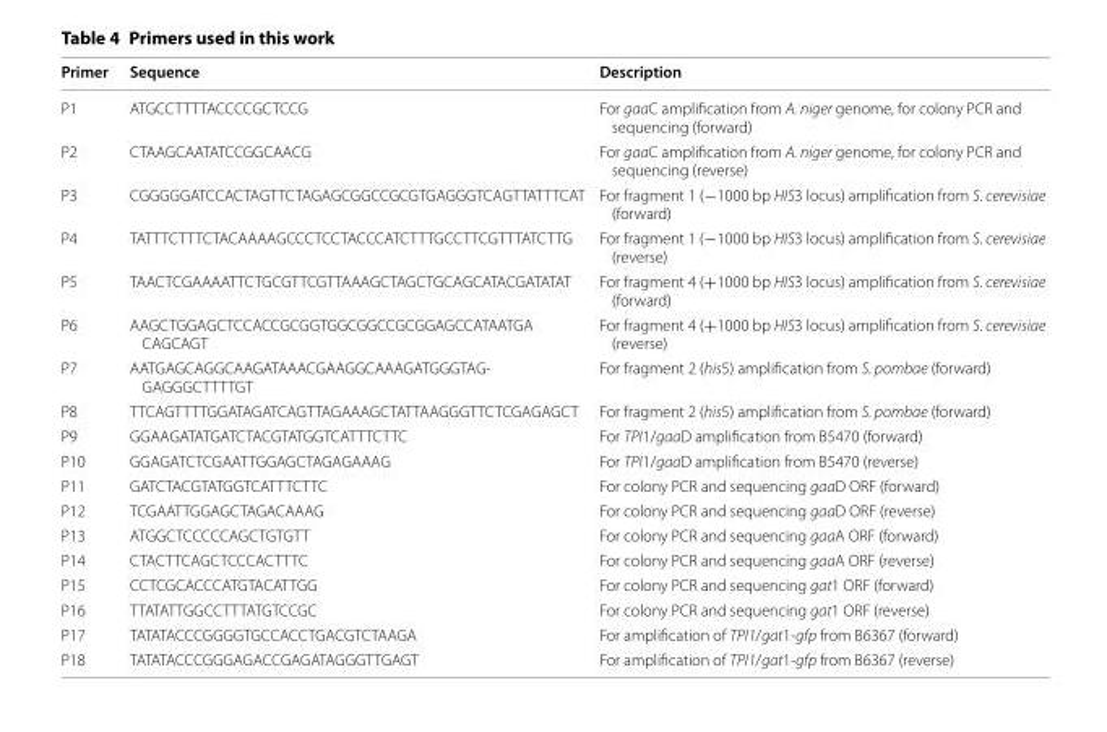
<table><thead><tr><td>Primer</td><td>Sequence</td><td>Description</td></tr></thead><tbody><tr><td>P1</td><td>ATGCCTTTTACCCCGCTCCG</td><td>For gaaC amplification from A. niger genome, for colony PCR and sequencing (forward)</td></tr><tr><td>P2</td><td>CTAAGCAATATCCGGCAACG</td><td>For gaaC amplification from A. niger genome, for colony PCR and sequencing (reverse)</td></tr><tr><td>P3</td><td>CGGGGGATCCACTAGTTCTAGAGCGGCCGCGTGAGGGTCAGTTATTTCAT</td><td>For fragment 1 (−1000 bp HIS3 locus) amplification from S. cerevisiae (forward)</td></tr><tr><td>P4</td><td>TATTTCTTTCTACAAAAGCCCTCCTACCCATCTTTGCCTTCGTTTATCTTG</td><td>For fragment 1 (−1000 bp HIS3 locus) amplification from S. cerevisiae (reverse)</td></tr><tr><td>P5</td><td>TAACTCGAAAATTCTGCGTTCGTTAAAGCTAGCTGCAGCATACGATATAT</td><td>For fragment 4 (+1000 bp HIS3 locus) amplification from S. cerevisiae (forward)</td></tr><tr><td>P6</td><td>AAGCTGGAGCTCCACCGCGGTGGCGGCCGCGGAGCCATAATGA CAGCAGT</td><td>For fragment 4 (+1000 bp HIS3 locus) amplification from S. cerevisiae (reverse)</td></tr><tr><td>P7</td><td>AATGAGCAGGCAAGATAAACGAAGGCAAAGATGGGTAG‑ GAGGGCTTTTGT</td><td>For fragment 2 (his5) amplification from S. pombae (forward)</td></tr><tr><td>P8</td><td>TTCAGTTTTGGATAGATCAGTTAGAAAGCTATTAAGGGTTCTCGAGAGCT</td><td>For fragment 2 (his5) amplification from S. pombae (forward)</td></tr><tr><td>P9</td><td>GGAAGATATGATCTACGTATGGTCATTTCTTC</td><td>For TPI1/gaaD amplification from B5470 (forward)</td></tr><tr><td>P10</td><td>GGAGATCTCGAATTGGAGCTAGAGAAAG</td><td>For TPI1/gaaD amplification from B5470 (reverse)</td></tr><tr><td>P11</td><td>GATCTACGTATGGTCATTTCTTC</td><td>For colony PCR and sequencing gaaD ORF (forward)</td></tr><tr><td>P12</td><td>TCGAATTGGAGCTAGACAAAG</td><td>For colony PCR and sequencing gaaD ORF (reverse)</td></tr><tr><td>P13</td><td>ATGGCTCCCCCAGCTGTGTT</td><td>For colony PCR and sequencing gaaA ORF (forward)</td></tr><tr><td>P14</td><td>CTACTTCAGCTCCCACTTTC</td><td>For colony PCR and sequencing gaaA ORF (reverse)</td></tr><tr><td>P15</td><td>CCTCGCACCCATGTACATTGG</td><td>For colony PCR and sequencing gat1 ORF (forward)</td></tr><tr><td>P16</td><td>TTATATTGGCCTTTATGTCCGC</td><td>For colony PCR and sequencing gat1 ORF (reverse)</td></tr><tr><td>P17</td><td>TATATACCCGGGGTGCCACCTGACGTCTAAGA</td><td>For amplification of TPI1/gat1‑gfp from B6367 (forward)</td></tr><tr><td>P18</td><td>TATATACCCGGGAGACCGAGATAGGGTTGAGT</td><td>For amplification of TPI1/gat1‑gfp from B6367 (reverse)</td></tr></tbody></table>